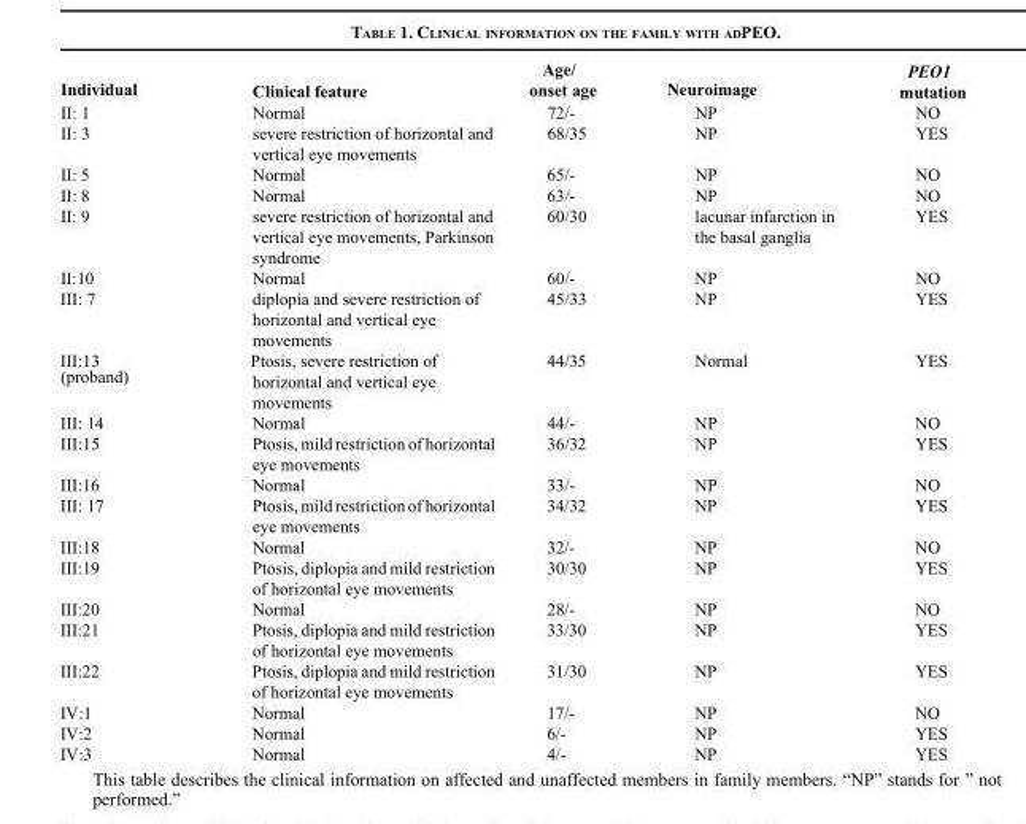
<table><thead><tr><td>Individual</td><td>Clinical feature</td><td>Age/ onset age</td><td>Neuroimage</td><td>PEO1 mutation</td></tr></thead><tbody><tr><td>II: 1</td><td>Normal</td><td>72/-</td><td>NP</td><td>NO</td></tr><tr><td>II: 3</td><td>severe restriction of horizontal and vertical eye movements</td><td>68/35</td><td>NP</td><td>YES</td></tr><tr><td>II: 5</td><td>Normal</td><td>65/-</td><td>NP</td><td>NO</td></tr><tr><td>II: 8</td><td>Normal</td><td>63/-</td><td>NP</td><td>NO</td></tr><tr><td>II: 9</td><td>severe restriction of horizontal and vertical eye movements, Parkinson syndrome</td><td>60/30</td><td>lacunar infarction in the basal ganglia</td><td>YES</td></tr><tr><td>II:10</td><td>Normal</td><td>60/-</td><td>NP</td><td>NO</td></tr><tr><td>III: 7</td><td>diplopia and severe restriction of horizontal and vertical eye movements</td><td>45/33</td><td>NP</td><td>YES</td></tr><tr><td>III:13 (proband)</td><td>Ptosis, severe restriction of horizontal and vertical eye movements</td><td>44/35</td><td>Normal</td><td>YES</td></tr><tr><td>III: 14</td><td>Normal</td><td>44/-</td><td>NP</td><td>NO</td></tr><tr><td>III:15</td><td>Ptosis, mild restriction of horizontal eye movements</td><td>36/32</td><td>NP</td><td>YES</td></tr><tr><td>III:16</td><td>Normal</td><td>33/-</td><td>NP</td><td>NO</td></tr><tr><td>III: 17</td><td>Ptosis, mild restriction of horizontal eye movements</td><td>34/32</td><td>NP</td><td>YES</td></tr><tr><td>III:18</td><td>Normal</td><td>32/-</td><td>NP</td><td>NO</td></tr><tr><td>III:19</td><td>Ptosis, diplopia and mild restriction of horizontal eye movements</td><td>30/30</td><td>NP</td><td>YES</td></tr><tr><td>III:20</td><td>Normal</td><td>28/-</td><td>NP</td><td>NO</td></tr><tr><td>III:21</td><td>Ptosis, diplopia and mild restriction of horizontal eye movements</td><td>33/30</td><td>NP</td><td>YES</td></tr><tr><td>III:22</td><td>Ptosis, diplopia and mild restriction of horizontal eye movements</td><td>31/30</td><td>NP</td><td>YES</td></tr><tr><td>IV:1</td><td>Normal</td><td>17/-</td><td>NP</td><td>NO</td></tr><tr><td>IV:2</td><td>Normal</td><td>6/-</td><td>NP</td><td>YES</td></tr><tr><td>IV:3</td><td>Normal</td><td>4/-</td><td>NP</td><td>YES</td></tr></tbody></table>